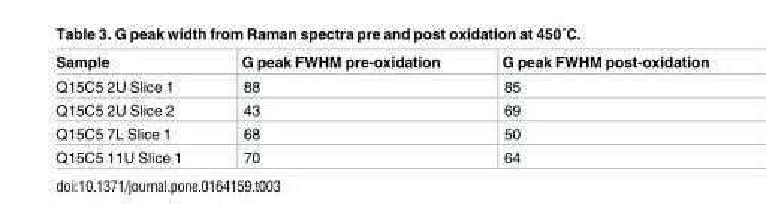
<table><thead><tr><td>Sample</td><td>G peak FWHM pre-oxidation</td><td>G peak FWHM post-oxidation</td></tr></thead><tbody><tr><td>Q15C5 2U Slice 1</td><td>88</td><td>85</td></tr><tr><td>Q15C5 2U Slice 2</td><td>43</td><td>69</td></tr><tr><td>Q15C5 7L Slice 1</td><td>68</td><td>50</td></tr><tr><td>Q15C5 11U Slice 1</td><td>70</td><td>64</td></tr></tbody></table>